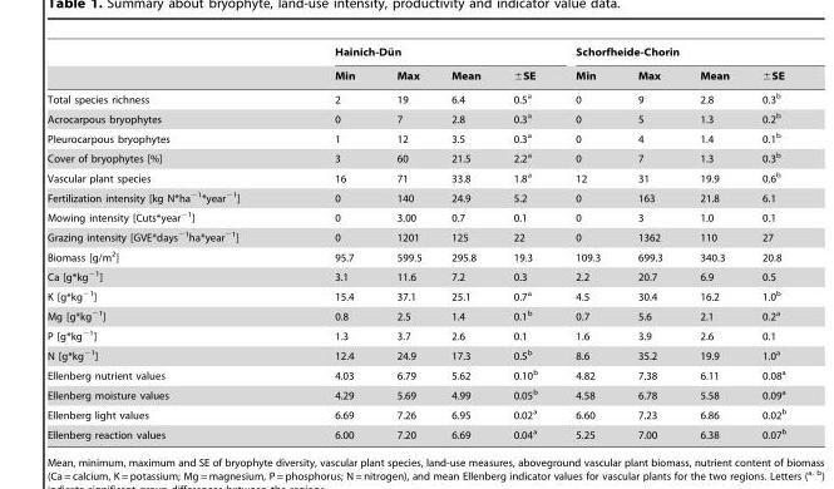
<table><thead><tr><td rowspan="2"></td><td colspan="4">Hainich-Du¨ n</td><td colspan="4">Schorfheide-Chorin</td></tr><tr><td>Min</td><td>Max</td><td>Mean</td><td>±SE</td><td>Min</td><td>Max</td><td>Mean</td><td>±SE</td></tr></thead><tbody><tr><td>Total species richness</td><td>2</td><td>19</td><td>6.4</td><td>0.5<sup>a</sup></td><td>0</td><td>9</td><td>2.8</td><td>0.3<sup>b</sup></td></tr><tr><td>Acrocarpous bryophytes</td><td>0</td><td>7</td><td>2.8</td><td>0.3<sup>a</sup></td><td>0</td><td>5</td><td>1.3</td><td>0.2<sup>b</sup></td></tr><tr><td>Pleurocarpous bryophytes</td><td>1</td><td>12</td><td>3.5</td><td>0.3<sup>a</sup></td><td>0</td><td>4</td><td>1.4</td><td>0.1<sup>b</sup></td></tr><tr><td>Cover of bryophytes [%]</td><td>3</td><td>60</td><td>21.5</td><td>2.2<sup>a</sup></td><td>0</td><td>7</td><td>1.3</td><td>0.3<sup>b</sup></td></tr><tr><td>Vascular plant species</td><td>16</td><td>71</td><td>33.8</td><td>1.8<sup>a</sup></td><td>12</td><td>31</td><td>19.9</td><td>0.6<sup>b</sup></td></tr><tr><td>Fertilization intensity [kg N*ha<sup>−1</sup>*year<sup>−1</sup>]</td><td>0</td><td>140</td><td>24.9</td><td>5.2</td><td>0</td><td>163</td><td>21.8</td><td>6.1</td></tr><tr><td>Mowing intensity [Cuts*year<sup>−1</sup>]</td><td>0</td><td>3.00</td><td>0.7</td><td>0.1</td><td>0</td><td>3</td><td>1.0</td><td>0.1</td></tr><tr><td>Grazing intensity [GVE*days<sup>−1</sup>ha*year<sup>−1</sup>]</td><td>0</td><td>1201</td><td>125</td><td>22</td><td>0</td><td>1362</td><td>110</td><td>27</td></tr><tr><td>Biomass [g/m<sup>2</sup>]</td><td>95.7</td><td>599.5</td><td>295.8</td><td>19.3</td><td>109.3</td><td>699.3</td><td>340.3</td><td>20.8</td></tr><tr><td>Ca [g*kg<sup>−1</sup>]</td><td>3.1</td><td>11.6</td><td>7.2</td><td>0.3</td><td>2.2</td><td>20.7</td><td>6.9</td><td>0.5</td></tr><tr><td>K [g*kg<sup>−1</sup>]</td><td>15.4</td><td>37.1</td><td>25.1</td><td>0.7<sup>a</sup></td><td>4.5</td><td>30.4</td><td>16.2</td><td>1.0<sup>b</sup></td></tr><tr><td>Mg [g*kg<sup>−1</sup>]</td><td>0.8</td><td>2.5</td><td>1.4</td><td>0.1<sup>b</sup></td><td>0.7</td><td>5.6</td><td>2.1</td><td>0.2<sup>a</sup></td></tr><tr><td>P [g*kg<sup>−1</sup>]</td><td>1.3</td><td>3.7</td><td>2.6</td><td>0.1</td><td>1.6</td><td>3.9</td><td>2.6</td><td>0.1</td></tr><tr><td>N [g*kg<sup>−1</sup>]</td><td>12.4</td><td>24.9</td><td>17.3</td><td>0.5<sup>b</sup></td><td>8.6</td><td>35.2</td><td>19.9</td><td>1.0<sup>a</sup></td></tr><tr><td>Ellenberg nutrient values</td><td>4.03</td><td>6.79</td><td>5.62</td><td>0.10<sup>b</sup></td><td>4.82</td><td>7.38</td><td>6.11</td><td>0.08<sup>a</sup></td></tr><tr><td>Ellenberg moisture values</td><td>4.29</td><td>5.69</td><td>4.99</td><td>0.05<sup>b</sup></td><td>4.58</td><td>6.78</td><td>5.58</td><td>0.09<sup>a</sup></td></tr><tr><td>Ellenberg light values</td><td>6.69</td><td>7.26</td><td>6.95</td><td>0.02<sup>a</sup></td><td>6.60</td><td>7.23</td><td>6.86</td><td>0.02<sup>b</sup></td></tr><tr><td>Ellenberg reaction values</td><td>6.00</td><td>7.20</td><td>6.69</td><td>0.04<sup>a</sup></td><td>5.25</td><td>7.00</td><td>6.38</td><td>0.07<sup>b</sup></td></tr></tbody></table>